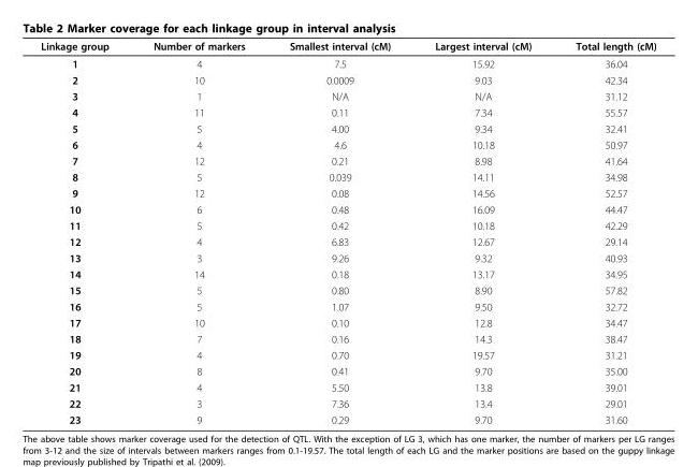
<table><thead><tr><td>Linkage group</td><td>Number of markers</td><td>Smallest interval (cM)</td><td>Largest interval (cM)</td><td>Total length (cM)</td></tr></thead><tbody><tr><td>1</td><td>4</td><td>7.5</td><td>15.92</td><td>36.04</td></tr><tr><td>2</td><td>10</td><td>0.0009</td><td>9.03</td><td>42.34</td></tr><tr><td>3</td><td>1</td><td>N/A</td><td>N/A</td><td>31.12</td></tr><tr><td>4</td><td>11</td><td>0.11</td><td>7.34</td><td>55.57</td></tr><tr><td>5</td><td>5</td><td>4.00</td><td>9.34</td><td>32.41</td></tr><tr><td>6</td><td>4</td><td>4.6</td><td>10.18</td><td>50.97</td></tr><tr><td>7</td><td>12</td><td>0.21</td><td>8.98</td><td>41.64</td></tr><tr><td>8</td><td>5</td><td>0.039</td><td>14.11</td><td>34.98</td></tr><tr><td>9</td><td>12</td><td>0.08</td><td>14.56</td><td>52.57</td></tr><tr><td>10</td><td>6</td><td>0.48</td><td>16.09</td><td>44.47</td></tr><tr><td>11</td><td>5</td><td>0.42</td><td>10.18</td><td>42.29</td></tr><tr><td>12</td><td>4</td><td>6.83</td><td>12.67</td><td>29.14</td></tr><tr><td>13</td><td>3</td><td>9.26</td><td>9.32</td><td>40.93</td></tr><tr><td>14</td><td>14</td><td>0.18</td><td>13.17</td><td>34.95</td></tr><tr><td>15</td><td>5</td><td>0.80</td><td>8.90</td><td>57.82</td></tr><tr><td>16</td><td>5</td><td>1.07</td><td>9.50</td><td>32.72</td></tr><tr><td>17</td><td>10</td><td>0.10</td><td>12.8</td><td>34.47</td></tr><tr><td>18</td><td>7</td><td>0.16</td><td>14.3</td><td>38.47</td></tr><tr><td>19</td><td>4</td><td>0.70</td><td>19.57</td><td>31.21</td></tr><tr><td>20</td><td>8</td><td>0.41</td><td>9.70</td><td>35.00</td></tr><tr><td>21</td><td>4</td><td>5.50</td><td>13.8</td><td>39.01</td></tr><tr><td>22</td><td>3</td><td>7.36</td><td>13.4</td><td>29.01</td></tr><tr><td>23</td><td>9</td><td>0.29</td><td>9.70</td><td>31.60</td></tr></tbody></table>